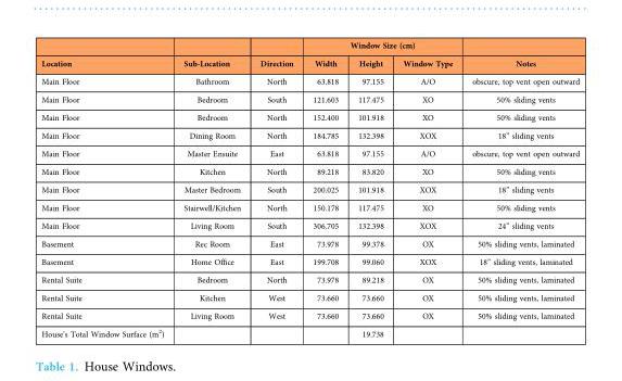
<table><thead><tr><td rowspan="2">Location</td><td rowspan="2">Sub-Location</td><td rowspan="2">Direction</td><td colspan="3">Window Size (cm)</td><td rowspan="2">Notes</td></tr><tr><td>Width</td><td>Height</td><td>Window Type</td></tr></thead><tbody><tr><td>Main Floor</td><td>Bathroom</td><td>North</td><td>63.818</td><td>97.155</td><td>A/O</td><td>obscure, top vent open outward</td></tr><tr><td>Main Floor</td><td>Bedroom</td><td>South</td><td>121.603</td><td>117.475</td><td>XO</td><td>50% sliding vents</td></tr><tr><td>Main Floor</td><td>Bedroom</td><td>North</td><td>152.400</td><td>101.918</td><td>XO</td><td>50% sliding vents</td></tr><tr><td>Main Floor</td><td>Dining Room</td><td>North</td><td>184.785</td><td>132.398</td><td>XOX</td><td>18” sliding vents</td></tr><tr><td>Main Floor</td><td>Master Ensuite</td><td>East</td><td>63.818</td><td>97.155</td><td>A/O</td><td>obscure, top vent open outward</td></tr><tr><td>Main Floor</td><td>Kitchen</td><td>North</td><td>89.218</td><td>83.820</td><td>XO</td><td>50% sliding vents</td></tr><tr><td>Main Floor</td><td>Master Bedroom</td><td>South</td><td>200.025</td><td>101.918</td><td>XOX</td><td>18” sliding vents</td></tr><tr><td>Main Floor</td><td>Stairwell/Kitchen</td><td>North</td><td>150.178</td><td>117.475</td><td>XO</td><td>50% sliding vents</td></tr><tr><td>Main Floor</td><td>Living Room</td><td>South</td><td>306.705</td><td>132.398</td><td>XOX</td><td>24” sliding vents</td></tr><tr><td>Basement</td><td>Rec Room</td><td>East</td><td>73.978</td><td>99.378</td><td>OX</td><td>50% sliding vents, laminated</td></tr><tr><td>Basement</td><td>Home Office</td><td>East</td><td>199.708</td><td>99.060</td><td>XOX</td><td>18” sliding vents, laminated</td></tr><tr><td>Rental Suite</td><td>Bedroom</td><td>North</td><td>73.978</td><td>89.218</td><td>OX</td><td>50% sliding vents, laminated</td></tr><tr><td>Rental Suite</td><td>Kitchen</td><td>West</td><td>73.660</td><td>73.660</td><td>OX</td><td>50% sliding vents, laminated</td></tr><tr><td>Rental Suite</td><td>Living Room</td><td>West</td><td>73.660</td><td>73.660</td><td>OX</td><td>50% sliding vents, laminated</td></tr><tr><td>House’s Total Window Surface (m<sup>2</sup>)</td><td></td><td></td><td></td><td>19.738</td><td></td><td></td></tr></tbody></table>